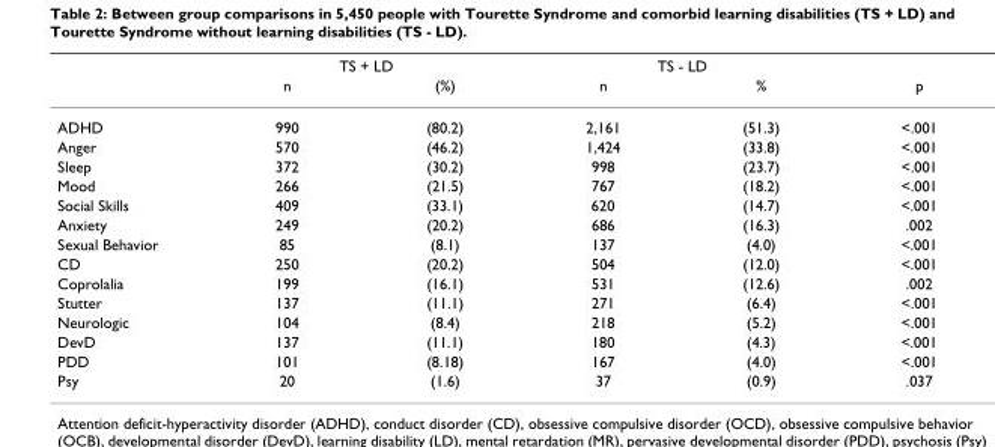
<table><thead><tr><td rowspan="2"></td><td colspan="2">TS + LD</td><td colspan="2">TS - LD</td><td rowspan="2">p</td></tr><tr><td>n</td><td>(%)</td><td>n</td><td>%</td></tr></thead><tbody><tr><td>ADHD</td><td>990</td><td>(80.2)</td><td>2,161</td><td>(51.3)</td><td>&lt;.001</td></tr><tr><td>Anger</td><td>570</td><td>(46.2)</td><td>1,424</td><td>(33.8)</td><td>&lt;.001</td></tr><tr><td>Sleep</td><td>372</td><td>(30.2)</td><td>998</td><td>(23.7)</td><td>&lt;.001</td></tr><tr><td>Mood</td><td>266</td><td>(21.5)</td><td>767</td><td>(18.2)</td><td>&lt;.001</td></tr><tr><td>Social Skills</td><td>409</td><td>(33.1)</td><td>620</td><td>(14.7)</td><td>&lt;.001</td></tr><tr><td>Anxiety</td><td>249</td><td>(20.2)</td><td>686</td><td>(16.3)</td><td>.002</td></tr><tr><td>Sexual Behavior</td><td>85</td><td>(8.1)</td><td>137</td><td>(4.0)</td><td>&lt;.001</td></tr><tr><td>CD</td><td>250</td><td>(20.2)</td><td>504</td><td>(12.0)</td><td>&lt;.001</td></tr><tr><td>Coprolalia</td><td>199</td><td>(16.1)</td><td>531</td><td>(12.6)</td><td>.002</td></tr><tr><td>Stutter</td><td>137</td><td>(11.1)</td><td>271</td><td>(6.4)</td><td>&lt;.001</td></tr><tr><td>Neurologic</td><td>104</td><td>(8.4)</td><td>218</td><td>(5.2)</td><td>&lt;.001</td></tr><tr><td>DevD</td><td>137</td><td>(11.1)</td><td>180</td><td>(4.3)</td><td>&lt;.001</td></tr><tr><td>PDD</td><td>101</td><td>(8.18)</td><td>167</td><td>(4.0)</td><td>&lt;.001</td></tr><tr><td>Psy</td><td>20</td><td>(1.6)</td><td>37</td><td>(0.9)</td><td>.037</td></tr></tbody></table>